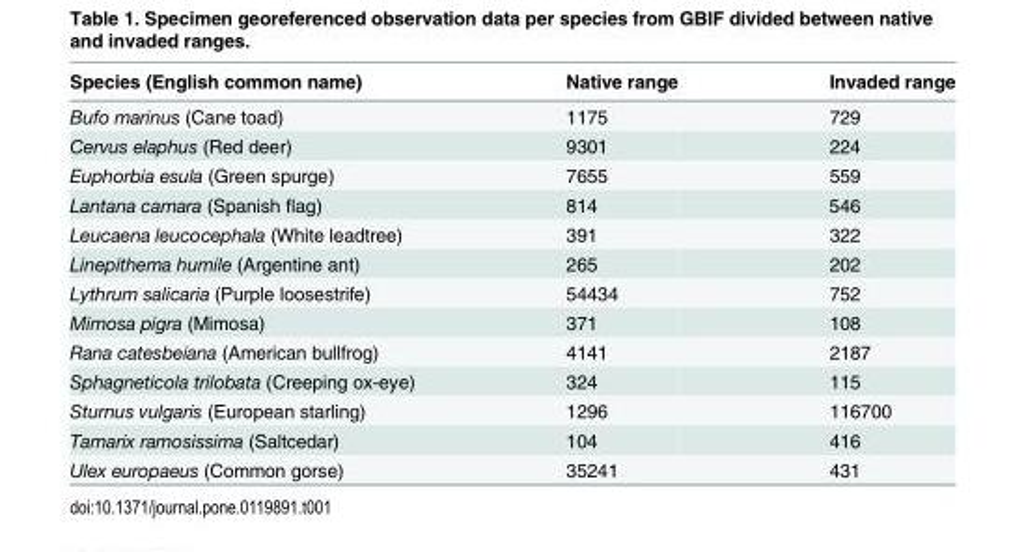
<table><thead><tr><td>Species (English common name)</td><td>Native range</td><td>Invaded range</td></tr></thead><tbody><tr><td>Bufo marinus (Cane toad)</td><td>1175</td><td>729</td></tr><tr><td>Cervus elaphus (Red deer)</td><td>9301</td><td>224</td></tr><tr><td>Euphorbia esula (Green spurge)</td><td>7655</td><td>559</td></tr><tr><td>Lantana camara (Spanish flag)</td><td>814</td><td>546</td></tr><tr><td>Leucaena leucocephala (White leadtree)</td><td>391</td><td>322</td></tr><tr><td>Linepithema humile (Argentine ant)</td><td>265</td><td>202</td></tr><tr><td>Lythrum salicaria (Purple loosestrife)</td><td>54434</td><td>752</td></tr><tr><td>Mimosa pigra (Mimosa)</td><td>371</td><td>108</td></tr><tr><td>Rana catesbeiana (American bullfrog)</td><td>4141</td><td>2187</td></tr><tr><td>Sphagneticola trilobata (Creeping ox-eye)</td><td>324</td><td>115</td></tr><tr><td>Sturnus vulgaris (European starling)</td><td>1296</td><td>116700</td></tr><tr><td>Tamarix ramosissima (Saltcedar)</td><td>104</td><td>416</td></tr><tr><td>Ulex europaeus (Common gorse)</td><td>35241</td><td>431</td></tr></tbody></table>